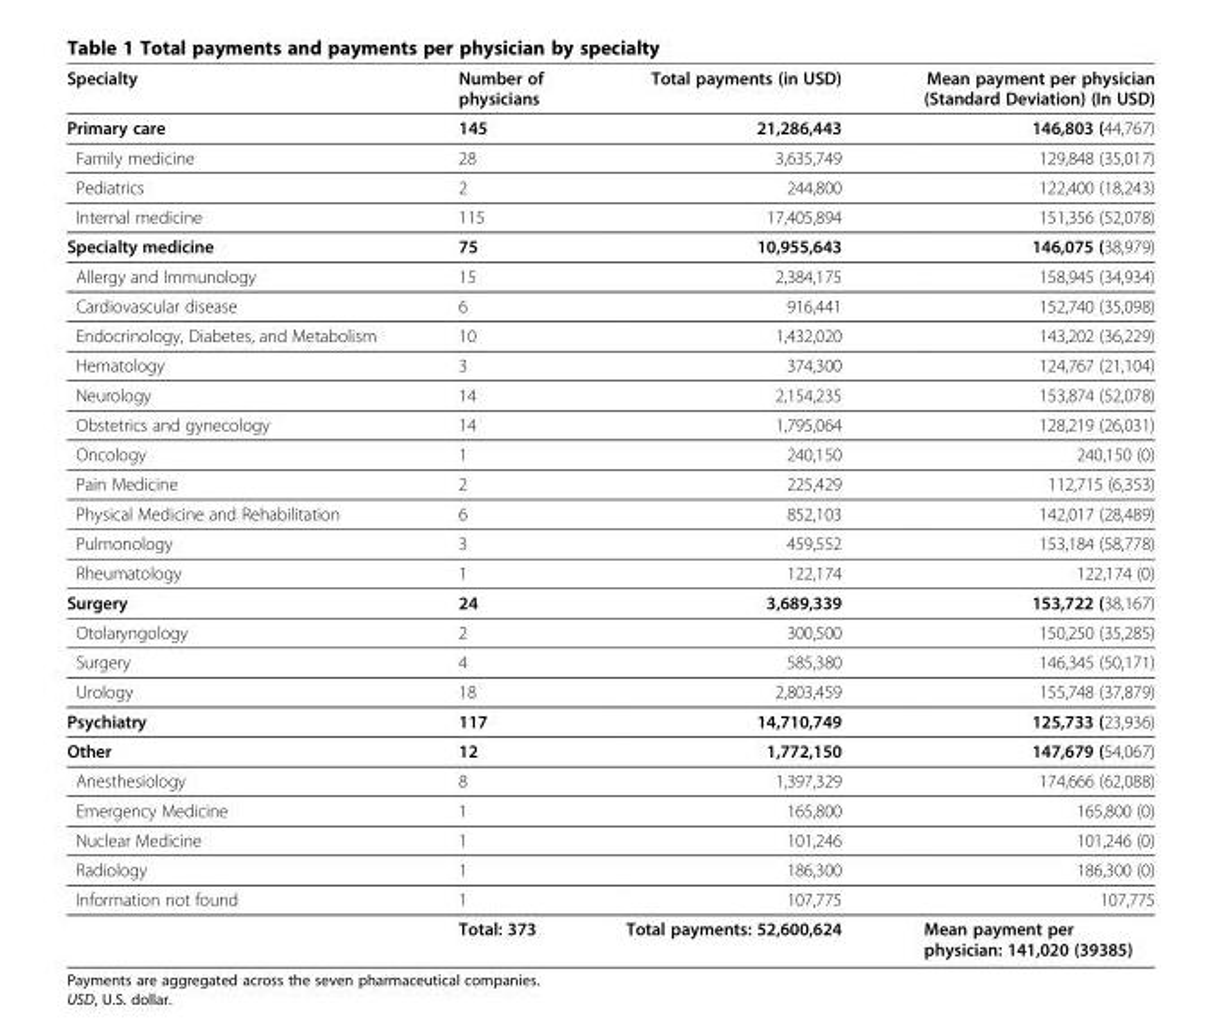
<table><thead><tr><td>Specialty</td><td>Number of physicians</td><td>Total payments (in USD)</td><td>Mean payment per physician (Standard Deviation) (In USD)</td></tr></thead><tbody><tr><td>Primary care</td><td>145</td><td>21,286,443</td><td>146,803 (44,767)</td></tr><tr><td>Family medicine</td><td>28</td><td>3,635,749</td><td>129,848 (35,017)</td></tr><tr><td>Pediatrics</td><td>2</td><td>244,800</td><td>122,400 (18,243)</td></tr><tr><td>Internal medicine</td><td>115</td><td>17,405,894</td><td>151,356 (52,078)</td></tr><tr><td>Specialty medicine</td><td>75</td><td>10,955,643</td><td>146,075 (38,979)</td></tr><tr><td>Allergy and Immunology</td><td>15</td><td>2,384,175</td><td>158,945 (34,934)</td></tr><tr><td>Cardiovascular disease</td><td>6</td><td>916,441</td><td>152,740 (35,098)</td></tr><tr><td>Endocrinology, Diabetes, and Metabolism</td><td>10</td><td>1,432,020</td><td>143,202 (36,229)</td></tr><tr><td>Hematology</td><td>3</td><td>374,300</td><td>124,767 (21,104)</td></tr><tr><td>Neurology</td><td>14</td><td>2,154,235</td><td>153,874 (52,078)</td></tr><tr><td>Obstetrics and gynecology</td><td>14</td><td>1,795,064</td><td>128,219 (26,031)</td></tr><tr><td>Oncology</td><td>1</td><td>240,150</td><td>240,150 (0)</td></tr><tr><td>Pain Medicine</td><td>2</td><td>225,429</td><td>112,715 (6,353)</td></tr><tr><td>Physical Medicine and Rehabilitation</td><td>6</td><td>852,103</td><td>142,017 (28,489)</td></tr><tr><td>Pulmonology</td><td>3</td><td>459,552</td><td>153,184 (58,778)</td></tr><tr><td>Rheumatology</td><td>1</td><td>122,174</td><td>122,174 (0)</td></tr><tr><td>Surgery</td><td>24</td><td>3,689,339</td><td>153,722 (38,167)</td></tr><tr><td>Otolaryngology</td><td>2</td><td>300,500</td><td>150,250 (35,285)</td></tr><tr><td>Surgery</td><td>4</td><td>585,380</td><td>146,345 (50,171)</td></tr><tr><td>Urology</td><td>18</td><td>2,803,459</td><td>155,748 (37,879)</td></tr><tr><td>Psychiatry</td><td>117</td><td>14,710,749</td><td>125,733 (23,936)</td></tr><tr><td>Other</td><td>12</td><td>1,772,150</td><td>147,679 (54,067)</td></tr><tr><td>Anesthesiology</td><td>8</td><td>1,397,329</td><td>174,666 (62,088)</td></tr><tr><td>Emergency Medicine</td><td>1</td><td>165,800</td><td>165,800 (0)</td></tr><tr><td>Nuclear Medicine</td><td>1</td><td>101,246</td><td>101,246 (0)</td></tr><tr><td>Radiology</td><td>1</td><td>186,300</td><td>186,300 (0)</td></tr><tr><td rowspan="2">Information not found</td><td>1</td><td>107,775</td><td>107,775</td></tr><tr><td>Total: 373</td><td>Total payments: 52,600,624</td><td>Mean payment per physician: 141,020 (39385)</td></tr></tbody></table>